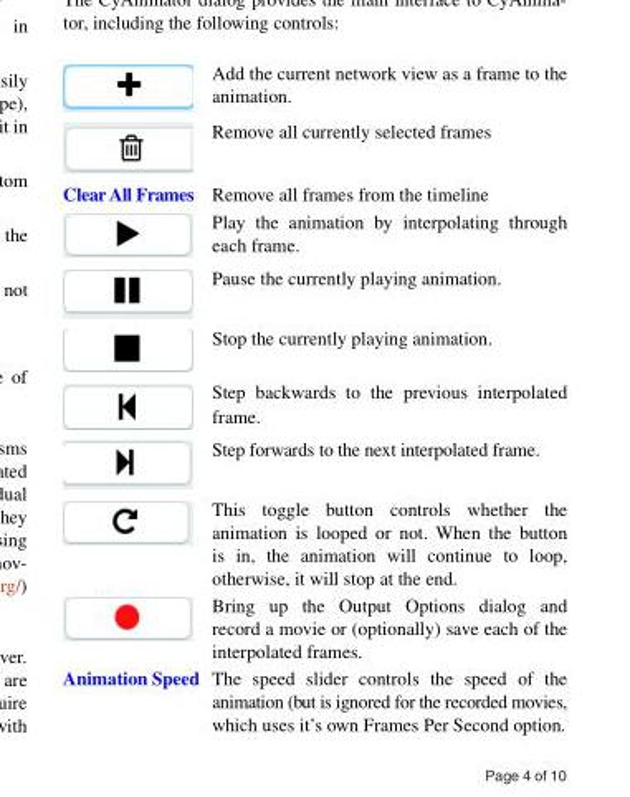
<table><thead><tr><td></td><td>Add the current network view as a frame to the animation.</td></tr></thead><tbody><tr><td></td><td>Remove all currently selected frames</td></tr><tr><td rowspan="8">Clear All Frames</td><td>Remove all frames from the timeline</td></tr><tr><td>Play the animation by interpolating through each frame.</td></tr><tr><td>Pause the currently playing animation.</td></tr><tr><td>Stop the currently playing animation.</td></tr><tr><td>Step backwards to the previous interpolated frame.</td></tr><tr><td>Step forwards to the next interpolated frame.</td></tr><tr><td>This toggle button controls whether the animation is looped or not. When the button is in, the animation will continue to loop, otherwise, it will stop at the end.</td></tr><tr><td>Bring up the Output Options dialog and record a movie or (optionally) save each of the interpolated frames.</td></tr><tr><td>Animation Speed</td><td>The speed slider controls the speed of the animation (but is ignored for the recorded movies, which uses it’s own Frames Per Second option.</td></tr></tbody></table>